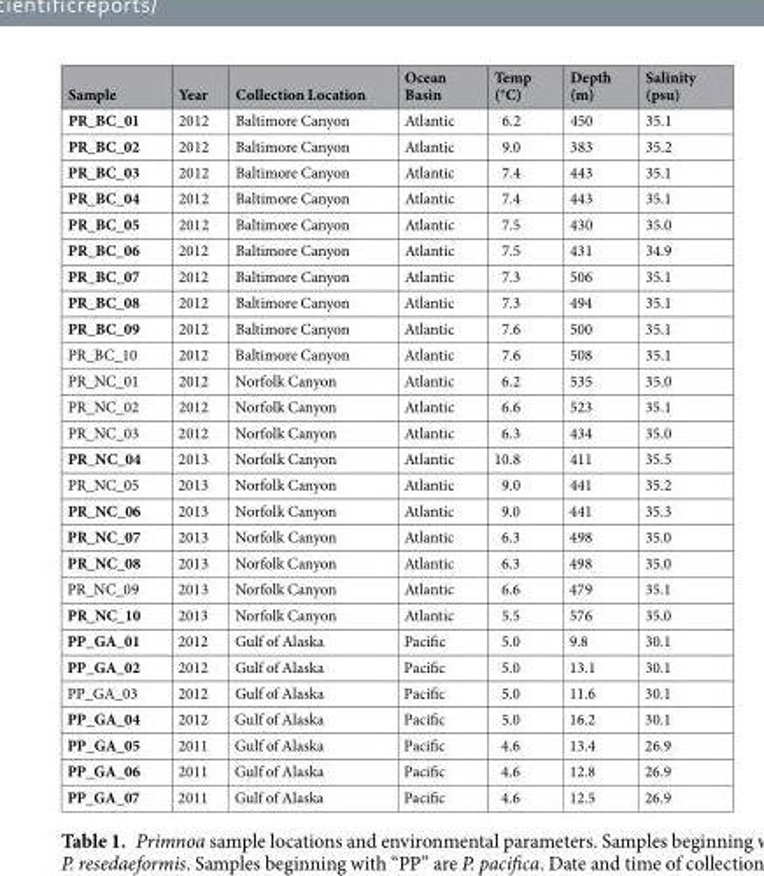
<table><thead><tr><td>Sample</td><td>Year</td><td>Collection Location</td><td>Ocean Basin</td><td>Temp (°C)</td><td>Depth (m)</td><td>Salinity (psu)</td></tr></thead><tbody><tr><td>PR_BC_01</td><td>2012</td><td>Baltimore Canyon</td><td>Atlantic</td><td>6.2</td><td>450</td><td>35.1</td></tr><tr><td>PR_BC_02</td><td>2012</td><td>Baltimore Canyon</td><td>Atlantic</td><td>9.0</td><td>383</td><td>35.2</td></tr><tr><td>PR_BC_03</td><td>2012</td><td>Baltimore Canyon</td><td>Atlantic</td><td>7.4</td><td>443</td><td>35.1</td></tr><tr><td>PR_BC_04</td><td>2012</td><td>Baltimore Canyon</td><td>Atlantic</td><td>7.4</td><td>443</td><td>35.1</td></tr><tr><td>PR_BC_05</td><td>2012</td><td>Baltimore Canyon</td><td>Atlantic</td><td>7.5</td><td>430</td><td>35.0</td></tr><tr><td>PR_BC_06</td><td>2012</td><td>Baltimore Canyon</td><td>Atlantic</td><td>7.5</td><td>431</td><td>34.9</td></tr><tr><td>PR_BC_07</td><td>2012</td><td>Baltimore Canyon</td><td>Atlantic</td><td>7.3</td><td>506</td><td>35.1</td></tr><tr><td>PR_BC_08</td><td>2012</td><td>Baltimore Canyon</td><td>Atlantic</td><td>7.3</td><td>494</td><td>35.1</td></tr><tr><td>PR_BC_09</td><td>2012</td><td>Baltimore Canyon</td><td>Atlantic</td><td>7.6</td><td>500</td><td>35.1</td></tr><tr><td>PR_BC_10</td><td>2012</td><td>Baltimore Canyon</td><td>Atlantic</td><td>7.6</td><td>508</td><td>35.1</td></tr><tr><td>PR_NC_01</td><td>2012</td><td>Norfolk Canyon</td><td>Atlantic</td><td>6.2</td><td>535</td><td>35.0</td></tr><tr><td>PR_NC_02</td><td>2012</td><td>Norfolk Canyon</td><td>Atlantic</td><td>6.6</td><td>523</td><td>35.1</td></tr><tr><td>PR_NC_03</td><td>2012</td><td>Norfolk Canyon</td><td>Atlantic</td><td>6.3</td><td>434</td><td>35.0</td></tr><tr><td>PR_NC_04</td><td>2013</td><td>Norfolk Canyon</td><td>Atlantic</td><td>10.8</td><td>411</td><td>35.5</td></tr><tr><td>PR_NC_05</td><td>2013</td><td>Norfolk Canyon</td><td>Atlantic</td><td>9.0</td><td>441</td><td>35.2</td></tr><tr><td>PR_NC_06</td><td>2013</td><td>Norfolk Canyon</td><td>Atlantic</td><td>9.0</td><td>441</td><td>35.3</td></tr><tr><td>PR_NC_07</td><td>2013</td><td>Norfolk Canyon</td><td>Atlantic</td><td>6.3</td><td>498</td><td>35.0</td></tr><tr><td>PR_NC_08</td><td>2013</td><td>Norfolk Canyon</td><td>Atlantic</td><td>6.3</td><td>498</td><td>35.0</td></tr><tr><td>PR_NC_09</td><td>2013</td><td>Norfolk Canyon</td><td>Atlantic</td><td>6.6</td><td>479</td><td>35.1</td></tr><tr><td>PR_NC_10</td><td>2013</td><td>Norfolk Canyon</td><td>Atlantic</td><td>5.5</td><td>576</td><td>35.0</td></tr><tr><td>PP_GA_01</td><td>2012</td><td>Gulf of Alaska</td><td>Pacific</td><td>5.0</td><td>9.8</td><td>30.1</td></tr><tr><td>PP_GA_02</td><td>2012</td><td>Gulf of Alaska</td><td>Pacific</td><td>5.0</td><td>13.1</td><td>30.1</td></tr><tr><td>PP_GA_03</td><td>2012</td><td>Gulf of Alaska</td><td>Pacific</td><td>5.0</td><td>11.6</td><td>30.1</td></tr><tr><td>PP_GA_04</td><td>2012</td><td>Gulf of Alaska</td><td>Pacific</td><td>5.0</td><td>16.2</td><td>30.1</td></tr><tr><td>PP_GA_05</td><td>2011</td><td>Gulf of Alaska</td><td>Pacific</td><td>4.6</td><td>13.4</td><td>26.9</td></tr><tr><td>PP_GA_06</td><td>2011</td><td>Gulf of Alaska</td><td>Pacific</td><td>4.6</td><td>12.8</td><td>26.9</td></tr><tr><td>PP_GA_07</td><td>2011</td><td>Gulf of Alaska</td><td>Pacific</td><td>4.6</td><td>12.5</td><td>26.9</td></tr></tbody></table>